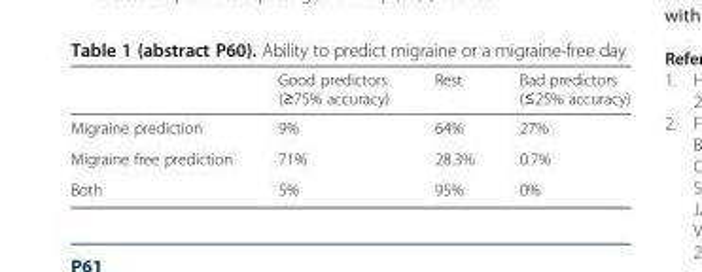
<table><thead><tr><td></td><td>Good predictors (≥75% accuracy)</td><td>Rest</td><td>Bad predictors (≤25% accuracy)</td></tr></thead><tbody><tr><td>Migraine prediction</td><td>9%</td><td>64%</td><td>27%</td></tr><tr><td>Migraine free prediction</td><td>71%</td><td>28.3%</td><td>0.7%</td></tr><tr><td>Both</td><td>5%</td><td>95%</td><td>0%</td></tr></tbody></table>